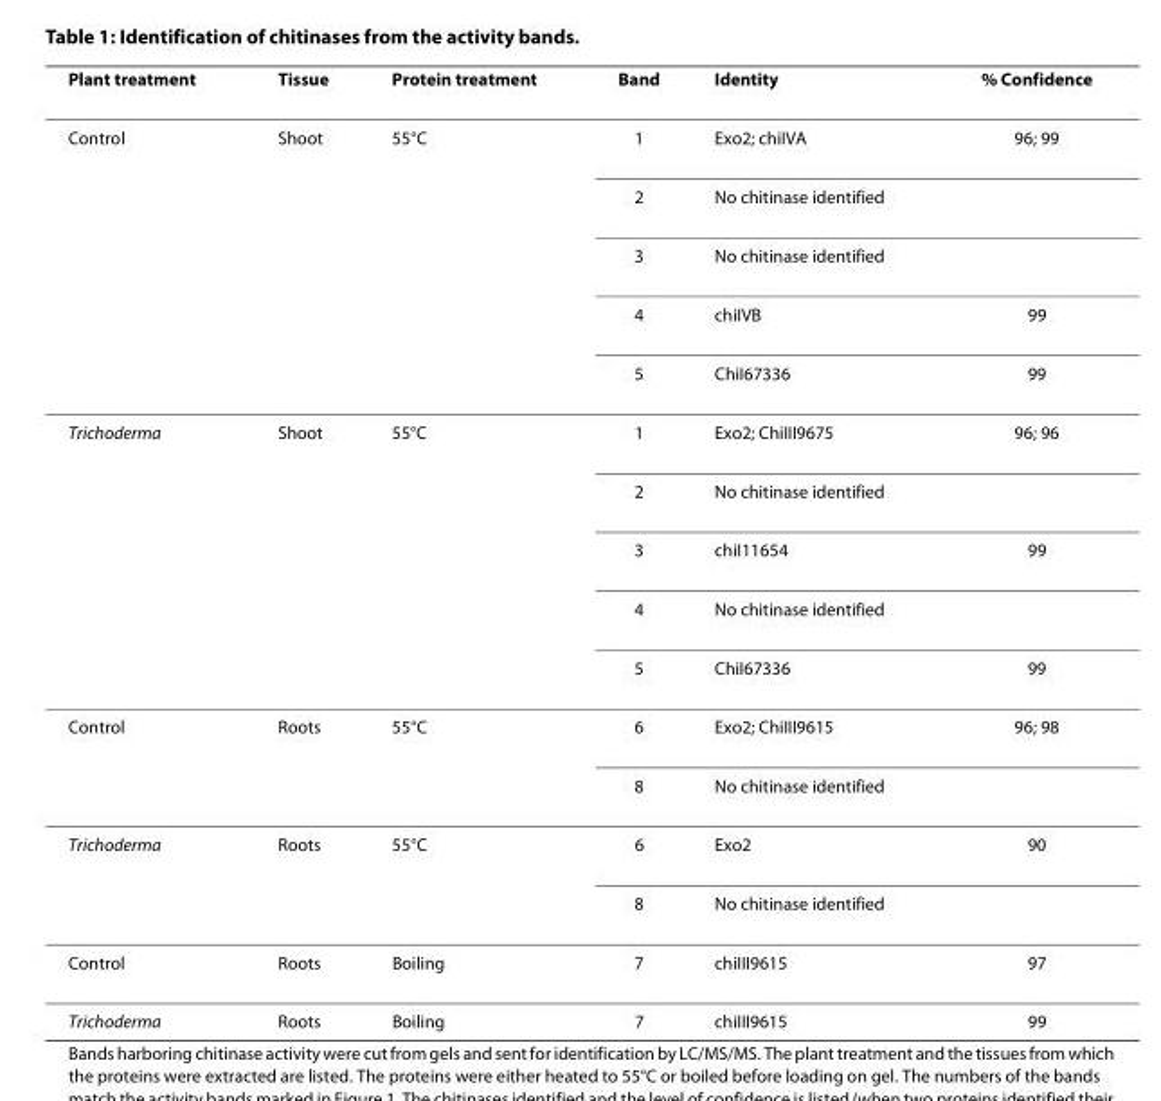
<table><thead><tr><td>Plant treatment</td><td>Tissue</td><td>Protein treatment</td><td>Band</td><td>Identity</td><td>% Confidence</td></tr></thead><tbody><tr><td rowspan="5">Control</td><td>Shoot</td><td>55°C</td><td>1</td><td>Exo2; chiIVA</td><td>96; 99</td></tr><tr><td></td><td></td><td>2</td><td>No chitinase identified</td><td></td></tr><tr><td></td><td></td><td>3</td><td>No chitinase identified</td><td></td></tr><tr><td></td><td></td><td>4</td><td>chiIVB</td><td>99</td></tr><tr><td></td><td></td><td>5</td><td>ChiI67336</td><td>99</td></tr><tr><td rowspan="5">Trichoderma</td><td>Shoot</td><td>55°C</td><td>1</td><td>Exo2; ChiIII9675</td><td>96; 96</td></tr><tr><td></td><td></td><td>2</td><td>No chitinase identified</td><td></td></tr><tr><td></td><td></td><td>3</td><td>chiI11654</td><td>99</td></tr><tr><td></td><td></td><td>4</td><td>No chitinase identified</td><td></td></tr><tr><td></td><td></td><td>5</td><td>ChiI67336</td><td>99</td></tr><tr><td rowspan="2">Control</td><td>Roots</td><td>55°C</td><td>6</td><td>Exo2; ChiIII9615</td><td>96; 98</td></tr><tr><td></td><td></td><td>8</td><td>No chitinase identified</td><td></td></tr><tr><td rowspan="2">Trichoderma</td><td>Roots</td><td>55°C</td><td>6</td><td>Exo2</td><td>90</td></tr><tr><td></td><td></td><td>8</td><td>No chitinase identified</td><td></td></tr><tr><td>Control</td><td>Roots</td><td>Boiling</td><td>7</td><td>chiIII9615</td><td>97</td></tr><tr><td>Trichoderma</td><td>Roots</td><td>Boiling</td><td>7</td><td>chiIII9615</td><td>99</td></tr></tbody></table>